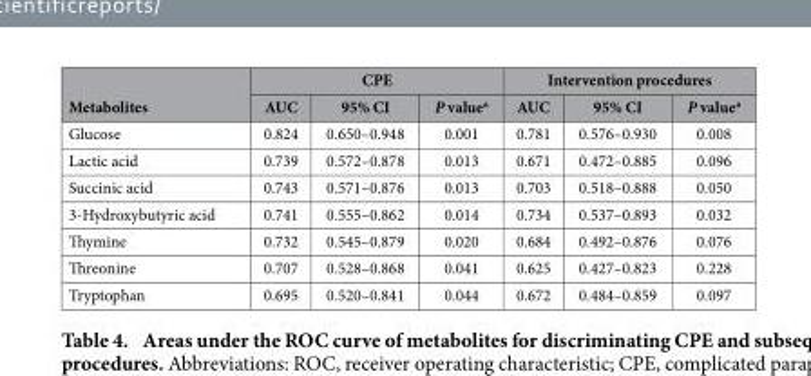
<table><thead><tr><td rowspan="2">Metabolites</td><td colspan="3">CPE</td><td colspan="3">Intervention procedures</td></tr><tr><td>AUC</td><td>95% CI</td><td>P value<sup>a</sup></td><td>AUC</td><td>95% CI</td><td>P value<sup>a</sup></td></tr></thead><tbody><tr><td>Glucose</td><td>0.824</td><td>0.650–0.948</td><td>0.001</td><td>0.781</td><td>0.576–0.930</td><td>0.008</td></tr><tr><td>Lactic acid</td><td>0.739</td><td>0.572–0.878</td><td>0.013</td><td>0.671</td><td>0.472–0.885</td><td>0.096</td></tr><tr><td>Succinic acid</td><td>0.743</td><td>0.571–0.876</td><td>0.013</td><td>0.703</td><td>0.518–0.888</td><td>0.050</td></tr><tr><td>3-Hydroxybutyric acid</td><td>0.741</td><td>0.555–0.862</td><td>0.014</td><td>0.734</td><td>0.537–0.893</td><td>0.032</td></tr><tr><td>Thymine</td><td>0.732</td><td>0.545–0.879</td><td>0.020</td><td>0.684</td><td>0.492–0.876</td><td>0.076</td></tr><tr><td>Threonine</td><td>0.707</td><td>0.528–0.868</td><td>0.041</td><td>0.625</td><td>0.427–0.823</td><td>0.228</td></tr><tr><td>Tryptophan</td><td>0.695</td><td>0.520–0.841</td><td>0.044</td><td>0.672</td><td>0.484–0.859</td><td>0.097</td></tr></tbody></table>